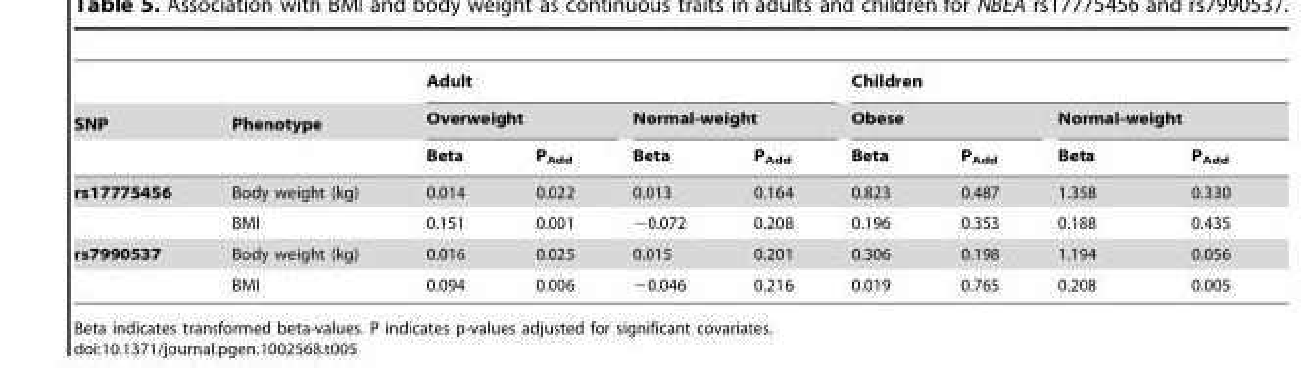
<table><thead><tr><td rowspan="3">SNP</td><td rowspan="3">Phenotype</td><td colspan="4">Adult</td><td colspan="4">Children</td></tr><tr><td colspan="2">Overweight</td><td colspan="2">Normal-weight</td><td colspan="2">Obese</td><td colspan="2">Normal-weight</td></tr><tr><td>Beta</td><td>P<sub>Add</sub></td><td>Beta</td><td>P<sub>Add</sub></td><td>Beta</td><td>P<sub>Add</sub></td><td>Beta</td><td>P<sub>Add</sub></td></tr></thead><tbody><tr><td rowspan="2">rs17775456</td><td>Body weight (kg)</td><td>0.014</td><td>0.022</td><td>0.013</td><td>0.164</td><td>0.823</td><td>0.487</td><td>1.358</td><td>0.330</td></tr><tr><td>BMI</td><td>0.151</td><td>0.001</td><td>−0.072</td><td>0.208</td><td>0.196</td><td>0.353</td><td>0.188</td><td>0.435</td></tr><tr><td rowspan="2">rs7990537</td><td>Body weight (kg)</td><td>0.016</td><td>0.025</td><td>0.015</td><td>0.201</td><td>0.306</td><td>0.198</td><td>1.194</td><td>0.056</td></tr><tr><td>BMI</td><td>0.094</td><td>0.006</td><td>−0.046</td><td>0.216</td><td>0.019</td><td>0.765</td><td>0.208</td><td>0.005</td></tr></tbody></table>